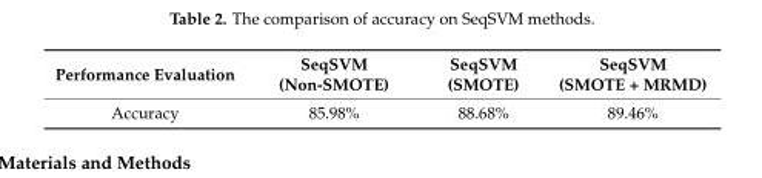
<table><thead><tr><td>Performance Evaluation</td><td>SeqSVM (Non-SMOTE)</td><td>SeqSVM (SMOTE)</td><td>SeqSVM (SMOTE + MRMD)</td></tr></thead><tbody><tr><td>Accuracy</td><td>85.98%</td><td>88.68%</td><td>89.46%</td></tr></tbody></table>